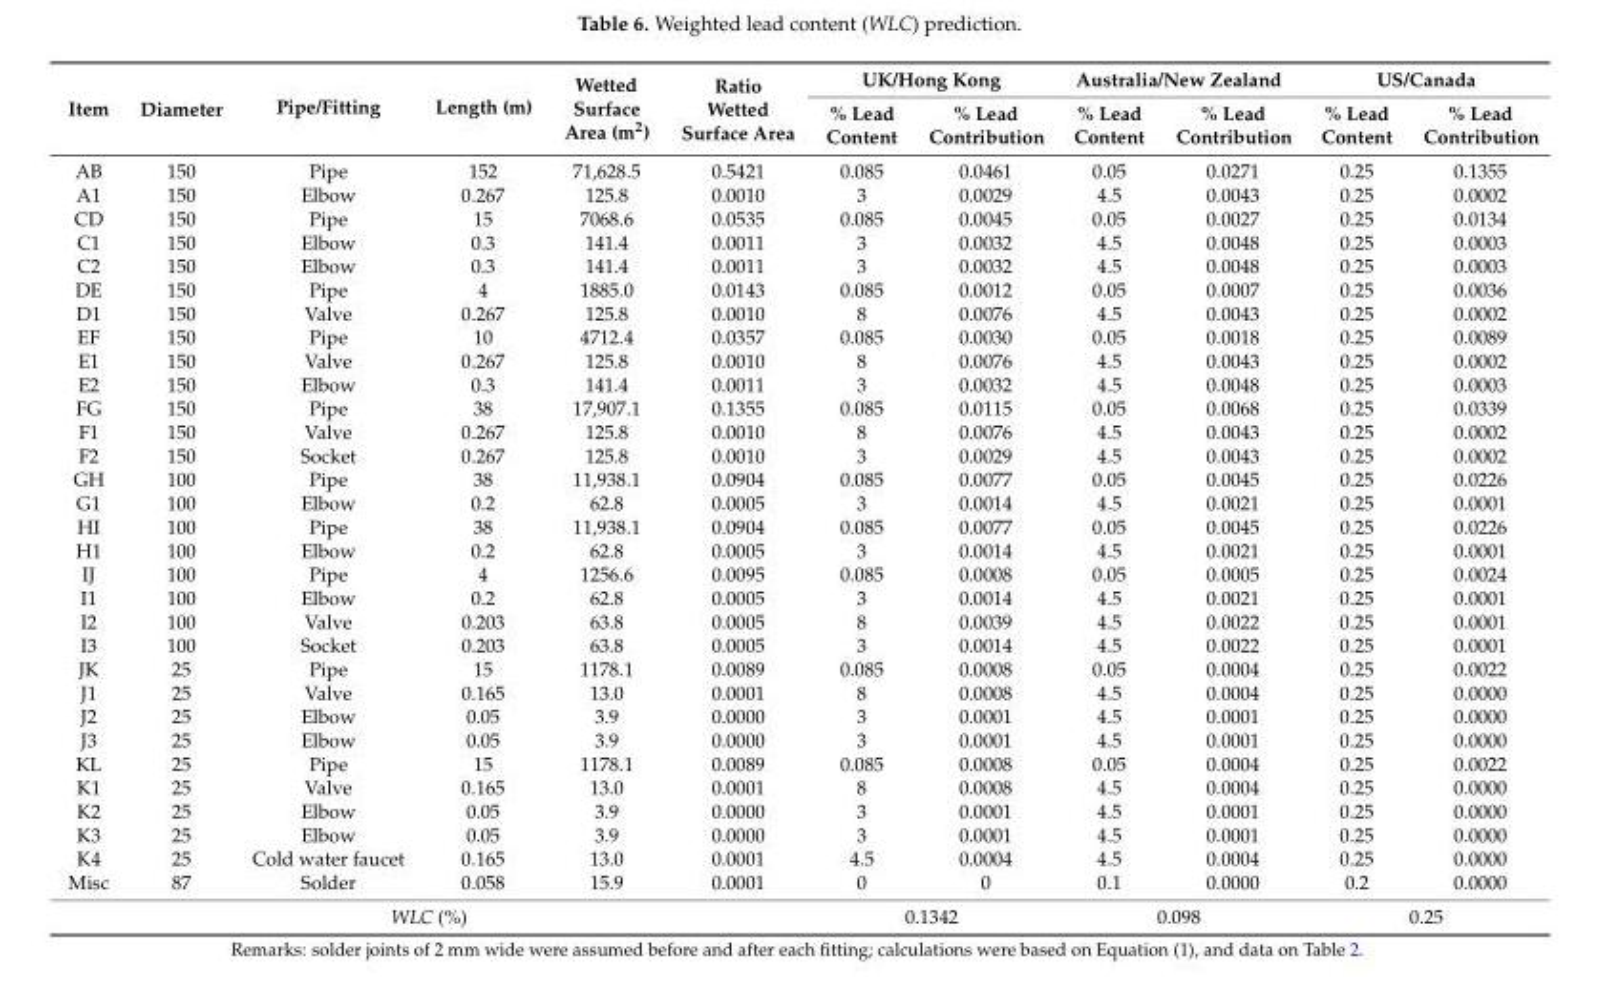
<table><thead><tr><td rowspan="2">Item</td><td rowspan="2">Diameter</td><td rowspan="2">Pipe/Fitting</td><td rowspan="2">Length (m)</td><td rowspan="2">Wetted Surface Area (m<sup>2</sup>)</td><td rowspan="2">Ratio Wetted Surface Area</td><td colspan="2">UK/Hong Kong</td><td colspan="2">Australia/New Zealand</td><td colspan="2">US/Canada</td></tr><tr><td>% Lead Content</td><td>% Lead Contribution</td><td>% Lead Content</td><td>% Lead Contribution</td><td>% Lead Content</td><td>% Lead Contribution</td></tr></thead><tbody><tr><td>AB</td><td>150</td><td>Pipe</td><td>152</td><td>71,628.5</td><td>0.5421</td><td>0.085</td><td>0.0461</td><td>0.05</td><td>0.0271</td><td>0.25</td><td>0.1355</td></tr><tr><td>A1</td><td>150</td><td>Elbow</td><td>0.267</td><td>125.8</td><td>0.0010</td><td>3</td><td>0.0029</td><td>4.5</td><td>0.0043</td><td>0.25</td><td>0.0002</td></tr><tr><td>CD</td><td>150</td><td>Pipe</td><td>15</td><td>7068.6</td><td>0.0535</td><td>0.085</td><td>0.0045</td><td>0.05</td><td>0.0027</td><td>0.25</td><td>0.0134</td></tr><tr><td>C1</td><td>150</td><td>Elbow</td><td>0.3</td><td>141.4</td><td>0.0011</td><td>3</td><td>0.0032</td><td>4.5</td><td>0.0048</td><td>0.25</td><td>0.0003</td></tr><tr><td>C2</td><td>150</td><td>Elbow</td><td>0.3</td><td>141.4</td><td>0.0011</td><td>3</td><td>0.0032</td><td>4.5</td><td>0.0048</td><td>0.25</td><td>0.0003</td></tr><tr><td>DE</td><td>150</td><td>Pipe</td><td>4</td><td>1885.0</td><td>0.0143</td><td>0.085</td><td>0.0012</td><td>0.05</td><td>0.0007</td><td>0.25</td><td>0.0036</td></tr><tr><td>D1</td><td>150</td><td>Valve</td><td>0.267</td><td>125.8</td><td>0.0010</td><td>8</td><td>0.0076</td><td>4.5</td><td>0.0043</td><td>0.25</td><td>0.0002</td></tr><tr><td>EF</td><td>150</td><td>Pipe</td><td>10</td><td>4712.4</td><td>0.0357</td><td>0.085</td><td>0.0030</td><td>0.05</td><td>0.0018</td><td>0.25</td><td>0.0089</td></tr><tr><td>E1</td><td>150</td><td>Valve</td><td>0.267</td><td>125.8</td><td>0.0010</td><td>8</td><td>0.0076</td><td>4.5</td><td>0.0043</td><td>0.25</td><td>0.0002</td></tr><tr><td>E2</td><td>150</td><td>Elbow</td><td>0.3</td><td>141.4</td><td>0.0011</td><td>3</td><td>0.0032</td><td>4.5</td><td>0.0048</td><td>0.25</td><td>0.0003</td></tr><tr><td>FG</td><td>150</td><td>Pipe</td><td>38</td><td>17,907.1</td><td>0.1355</td><td>0.085</td><td>0.0115</td><td>0.05</td><td>0.0068</td><td>0.25</td><td>0.0339</td></tr><tr><td>F1</td><td>150</td><td>Valve</td><td>0.267</td><td>125.8</td><td>0.0010</td><td>8</td><td>0.0076</td><td>4.5</td><td>0.0043</td><td>0.25</td><td>0.0002</td></tr><tr><td>F2</td><td>150</td><td>Socket</td><td>0.267</td><td>125.8</td><td>0.0010</td><td>3</td><td>0.0029</td><td>4.5</td><td>0.0043</td><td>0.25</td><td>0.0002</td></tr><tr><td>GH</td><td>100</td><td>Pipe</td><td>38</td><td>11,938.1</td><td>0.0904</td><td>0.085</td><td>0.0077</td><td>0.05</td><td>0.0045</td><td>0.25</td><td>0.0226</td></tr><tr><td>G1</td><td>100</td><td>Elbow</td><td>0.2</td><td>62.8</td><td>0.0005</td><td>3</td><td>0.0014</td><td>4.5</td><td>0.0021</td><td>0.25</td><td>0.0001</td></tr><tr><td>HI</td><td>100</td><td>Pipe</td><td>38</td><td>11,938.1</td><td>0.0904</td><td>0.085</td><td>0.0077</td><td>0.05</td><td>0.0045</td><td>0.25</td><td>0.0226</td></tr><tr><td>H1</td><td>100</td><td>Elbow</td><td>0.2</td><td>62.8</td><td>0.0005</td><td>3</td><td>0.0014</td><td>4.5</td><td>0.0021</td><td>0.25</td><td>0.0001</td></tr><tr><td>IJ</td><td>100</td><td>Pipe</td><td>4</td><td>1256.6</td><td>0.0095</td><td>0.085</td><td>0.0008</td><td>0.05</td><td>0.0005</td><td>0.25</td><td>0.0024</td></tr><tr><td>I1</td><td>100</td><td>Elbow</td><td>0.2</td><td>62.8</td><td>0.0005</td><td>3</td><td>0.0014</td><td>4.5</td><td>0.0021</td><td>0.25</td><td>0.0001</td></tr><tr><td>I2</td><td>100</td><td>Valve</td><td>0.203</td><td>63.8</td><td>0.0005</td><td>8</td><td>0.0039</td><td>4.5</td><td>0.0022</td><td>0.25</td><td>0.0001</td></tr><tr><td>I3</td><td>100</td><td>Socket</td><td>0.203</td><td>63.8</td><td>0.0005</td><td>3</td><td>0.0014</td><td>4.5</td><td>0.0022</td><td>0.25</td><td>0.0001</td></tr><tr><td>JK</td><td>25</td><td>Pipe</td><td>15</td><td>1178.1</td><td>0.0089</td><td>0.085</td><td>0.0008</td><td>0.05</td><td>0.0004</td><td>0.25</td><td>0.0022</td></tr><tr><td>J1</td><td>25</td><td>Valve</td><td>0.165</td><td>13.0</td><td>0.0001</td><td>8</td><td>0.0008</td><td>4.5</td><td>0.0004</td><td>0.25</td><td>0.0000</td></tr><tr><td>J2</td><td>25</td><td>Elbow</td><td>0.05</td><td>3.9</td><td>0.0000</td><td>3</td><td>0.0001</td><td>4.5</td><td>0.0001</td><td>0.25</td><td>0.0000</td></tr><tr><td>J3</td><td>25</td><td>Elbow</td><td>0.05</td><td>3.9</td><td>0.0000</td><td>3</td><td>0.0001</td><td>4.5</td><td>0.0001</td><td>0.25</td><td>0.0000</td></tr><tr><td>KL</td><td>25</td><td>Pipe</td><td>15</td><td>1178.1</td><td>0.0089</td><td>0.085</td><td>0.0008</td><td>0.05</td><td>0.0004</td><td>0.25</td><td>0.0022</td></tr><tr><td>K1</td><td>25</td><td>Valve</td><td>0.165</td><td>13.0</td><td>0.0001</td><td>8</td><td>0.0008</td><td>4.5</td><td>0.0004</td><td>0.25</td><td>0.0000</td></tr><tr><td>K2</td><td>25</td><td>Elbow</td><td>0.05</td><td>3.9</td><td>0.0000</td><td>3</td><td>0.0001</td><td>4.5</td><td>0.0001</td><td>0.25</td><td>0.0000</td></tr><tr><td>K3</td><td>25</td><td>Elbow</td><td>0.05</td><td>3.9</td><td>0.0000</td><td>3</td><td>0.0001</td><td>4.5</td><td>0.0001</td><td>0.25</td><td>0.0000</td></tr><tr><td>K4</td><td>25</td><td>Cold water faucet</td><td>0.165</td><td>13.0</td><td>0.0001</td><td>4.5</td><td>0.0004</td><td>4.5</td><td>0.0004</td><td>0.25</td><td>0.0000</td></tr><tr><td>Misc</td><td>87</td><td>Solder</td><td>0.058</td><td>15.9</td><td>0.0001</td><td>0</td><td>0</td><td>0.1</td><td>0.0000</td><td>0.2</td><td>0.0000</td></tr><tr><td colspan="6">WLC (%)</td><td colspan="2">0.1342</td><td colspan="2">0.098</td><td colspan="2">0.25</td></tr></tbody></table>